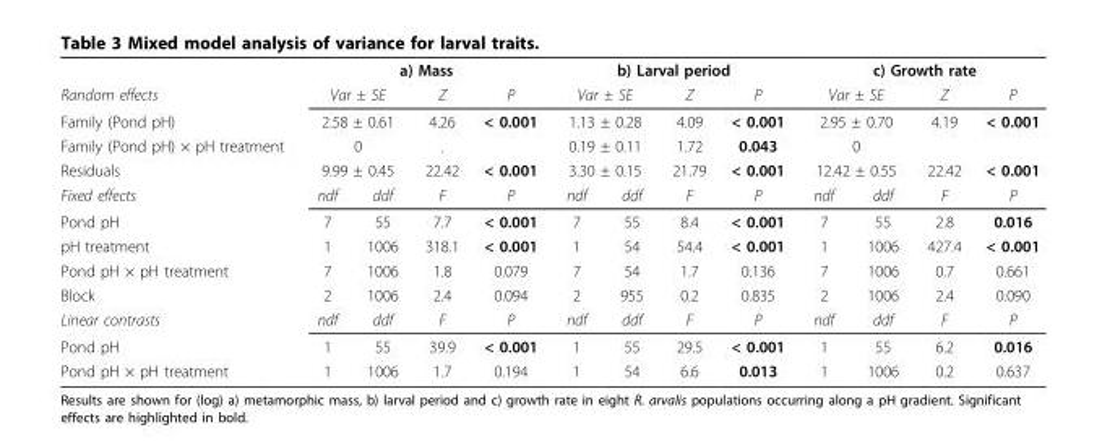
<table><thead><tr><td></td><td colspan="4">a) Mass</td><td colspan="4">b) Larval period</td><td colspan="4">c) Growth rate</td></tr></thead><tbody><tr><td>Random effects</td><td colspan="2">Var ± SE</td><td>Z</td><td>P</td><td colspan="2">Var ± SE</td><td>Z</td><td>P</td><td colspan="2">Var ± SE</td><td>Z</td><td>P</td></tr><tr><td>Family (Pond pH)</td><td colspan="2">2.58 ± 0.61</td><td>4.26</td><td>&lt; 0.001</td><td colspan="2">1.13 ± 0.28</td><td>4.09</td><td>&lt; 0.001</td><td colspan="2">2.95 ± 0.70</td><td>4.19</td><td>&lt; 0.001</td></tr><tr><td>Family (Pond pH) × pH treatment</td><td colspan="2">0</td><td>.</td><td></td><td colspan="2">0.19 ± 0.11</td><td>1.72</td><td>0.043</td><td colspan="2">0</td><td></td><td></td></tr><tr><td>Residuals</td><td colspan="2">9.99 ± 0.45</td><td>22.42</td><td>&lt; 0.001</td><td colspan="2">3.30 ± 0.15</td><td>21.79</td><td>&lt; 0.001</td><td colspan="2">12.42 ± 0.55</td><td>22.42</td><td>&lt; 0.001</td></tr><tr><td>Fixed effects</td><td>ndf</td><td>ddf</td><td>F</td><td>P</td><td>ndf</td><td>ddf</td><td>F</td><td>P</td><td>ndf</td><td>ddf</td><td>F</td><td>P</td></tr><tr><td>Pond pH</td><td>7</td><td>55</td><td>7.7</td><td>&lt; 0.001</td><td>7</td><td>55</td><td>8.4</td><td>&lt; 0.001</td><td>7</td><td>55</td><td>2.8</td><td>0.016</td></tr><tr><td>pH treatment</td><td>1</td><td>1006</td><td>318.1</td><td>&lt; 0.001</td><td>1</td><td>54</td><td>54.4</td><td>&lt; 0.001</td><td>1</td><td>1006</td><td>427.4</td><td>&lt; 0.001</td></tr><tr><td>Pond pH × pH treatment</td><td>7</td><td>1006</td><td>1.8</td><td>0.079</td><td>7</td><td>54</td><td>1.7</td><td>0.136</td><td>7</td><td>1006</td><td>0.7</td><td>0.661</td></tr><tr><td>Block</td><td>2</td><td>1006</td><td>2.4</td><td>0.094</td><td>2</td><td>955</td><td>0.2</td><td>0.835</td><td>2</td><td>1006</td><td>2.4</td><td>0.090</td></tr><tr><td>Linear contrasts</td><td>ndf</td><td>ddf</td><td>F</td><td>P</td><td>ndf</td><td>ddf</td><td>F</td><td>P</td><td>ndf</td><td>ddf</td><td>F</td><td>P</td></tr><tr><td>Pond pH</td><td>1</td><td>55</td><td>39.9</td><td>&lt; 0.001</td><td>1</td><td>55</td><td>29.5</td><td>&lt; 0.001</td><td>1</td><td>55</td><td>6.2</td><td>0.016</td></tr><tr><td>Pond pH × pH treatment</td><td>1</td><td>1006</td><td>1.7</td><td>0.194</td><td>1</td><td>54</td><td>6.6</td><td>0.013</td><td>1</td><td>1006</td><td>0.2</td><td>0.637</td></tr></tbody></table>